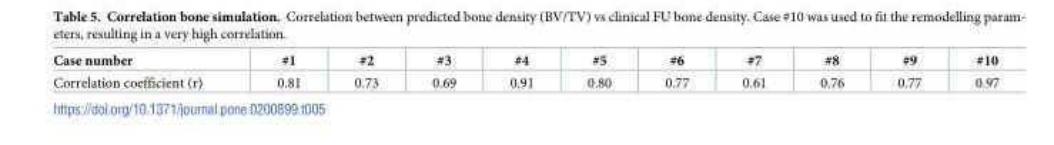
<table><thead><tr><td>Case number</td><td>#1</td><td>#2</td><td>#3</td><td>#4</td><td>#5</td><td>#6</td><td>#7</td><td>#8</td><td>#9</td><td>#10</td></tr></thead><tbody><tr><td>Correlation coefficient (r)</td><td>0.81</td><td>0.73</td><td>0.69</td><td>0.91</td><td>0.80</td><td>0.77</td><td>0.61</td><td>0.76</td><td>0.77</td><td>0.97</td></tr></tbody></table>